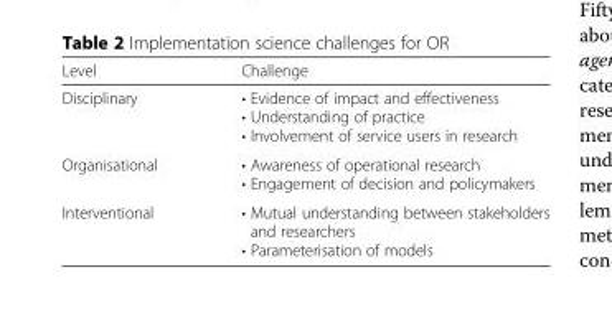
<table><thead><tr><td>Level</td><td>Challenge</td></tr></thead><tbody><tr><td>Disciplinary</td><td>• Evidence of impact and effectiveness • Understanding of practice • Involvement of service users in research</td></tr><tr><td>Organisational</td><td>• Awareness of operational research • Engagement of decision and policymakers</td></tr><tr><td>Interventional</td><td>• Mutual understanding between stakeholders and researchers • Parameterisation of models</td></tr></tbody></table>